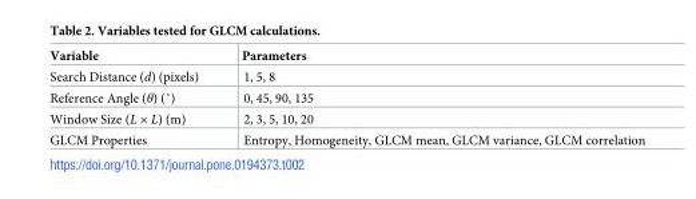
<table><thead><tr><td>Variable</td><td>Parameters</td></tr></thead><tbody><tr><td>Search Distance (d) (pixels)</td><td>1, 5, 8</td></tr><tr><td>Reference Angle (θ) (˚)</td><td>0, 45, 90, 135</td></tr><tr><td>Window Size (L × L) (m)</td><td>2, 3, 5, 10, 20</td></tr><tr><td>GLCM Properties</td><td>Entropy, Homogeneity, GLCM mean, GLCM variance, GLCM correlation</td></tr></tbody></table>